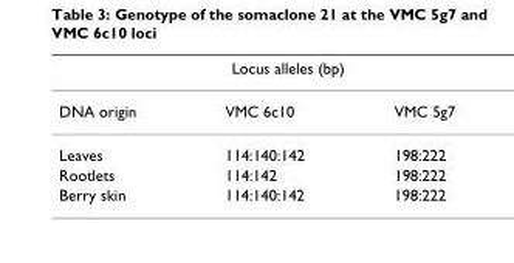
<table><thead><tr><td colspan="3">Locus alleles (bp)</td></tr><tr><td>DNA origin</td><td>VMC 6c10</td><td>VMC 5g7</td></tr></thead><tbody><tr><td>Leaves</td><td>114:140:142</td><td>198:222</td></tr><tr><td>Rootlets</td><td>114:142</td><td>198:222</td></tr><tr><td>Berry skin</td><td>114:140:142</td><td>198:222</td></tr></tbody></table>